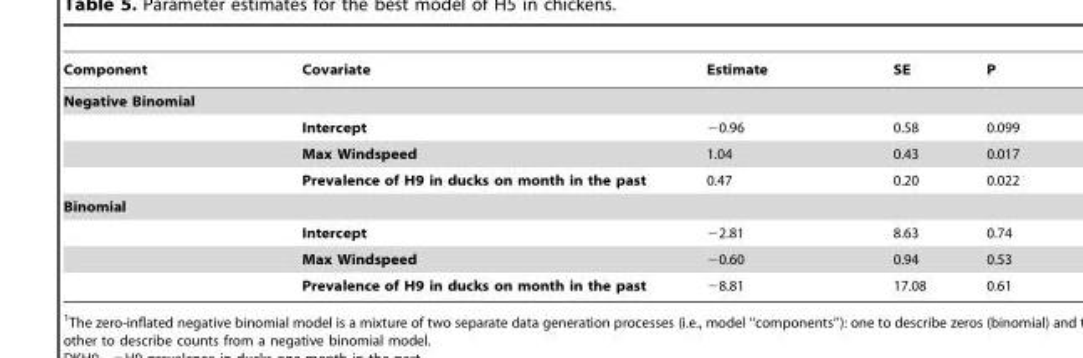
<table><thead><tr><td>Component</td><td>Covariate</td><td>Estimate</td><td>SE</td><td>P</td></tr></thead><tbody><tr><td colspan="5">Negative Binomial</td></tr><tr><td></td><td>Intercept</td><td>−0.96</td><td>0.58</td><td>0.099</td></tr><tr><td></td><td>Max Windspeed</td><td>1.04</td><td>0.43</td><td>0.017</td></tr><tr><td></td><td>Prevalence of H9 in ducks on month in the past</td><td>0.47</td><td>0.20</td><td>0.022</td></tr><tr><td colspan="5">Binomial</td></tr><tr><td></td><td>Intercept</td><td>−2.81</td><td>8.63</td><td>0.74</td></tr><tr><td></td><td>Max Windspeed</td><td>−0.60</td><td>0.94</td><td>0.53</td></tr><tr><td></td><td>Prevalence of H9 in ducks on month in the past</td><td>−8.81</td><td>17.08</td><td>0.61</td></tr></tbody></table>